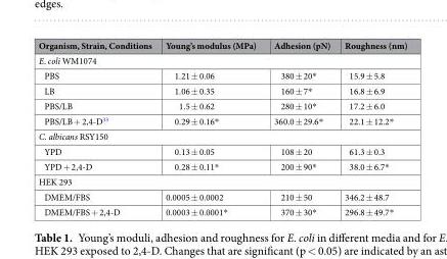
<table><thead><tr><td>Organism, Strain, Conditions</td><td>Young’s modulus (MPa)</td><td>Adhesion (pN)</td><td>Roughness (nm)</td></tr></thead><tbody><tr><td colspan="4">E. coli WM1074</td></tr><tr><td>PBS</td><td>1.21 ± 0.06</td><td>380 ± 20*</td><td>15.9 ± 5.8</td></tr><tr><td>LB</td><td>1.06 ± 0.35</td><td>160 ± 7*</td><td>16.8 ± 6.9</td></tr><tr><td>PBS/LB</td><td>1.5 ± 0.62</td><td>280 ± 10*</td><td>17.2 ± 6.0</td></tr><tr><td>PBS/LB + 2,4-D<sup>33</sup></td><td>0.29 ± 0.16*</td><td>360.0 ± 29.6*</td><td>22.1 ± 12.2*</td></tr><tr><td colspan="4">C. albicans RSY150</td></tr><tr><td>YPD</td><td>0.13 ± 0.05</td><td>108 ± 20</td><td>61.3 ± 0.3</td></tr><tr><td>YPD + 2,4-D</td><td>0.28 ± 0.11*</td><td>200 ± 90*</td><td>38.0 ± 6.7*</td></tr><tr><td colspan="4">HEK 293</td></tr><tr><td>DMEM/FBS</td><td>0.0005 ± 0.0002</td><td>210 ± 50</td><td>346.2 ± 48.7</td></tr><tr><td>DMEM/FBS + 2,4-D</td><td>0.0003 ± 0.0001*</td><td>370 ± 30*</td><td>296.8 ± 49.7*</td></tr></tbody></table>